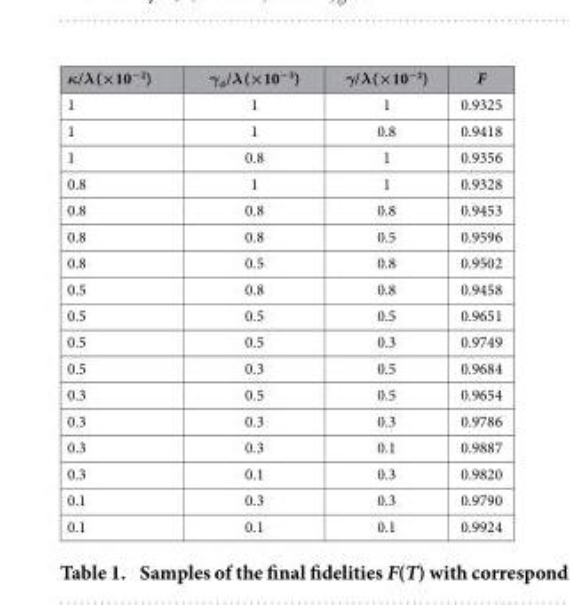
<table><thead><tr><td>κ/λ (×10<sup>−2</sup>)</td><td>γ<sub>φ</sub>/λ (×10<sup>−3</sup>)</td><td>γ/λ (×10<sup>−2</sup>)</td><td>F</td></tr></thead><tbody><tr><td>1</td><td>1</td><td>1</td><td>0.9325</td></tr><tr><td>1</td><td>1</td><td>0.8</td><td>0.9418</td></tr><tr><td>1</td><td>0.8</td><td>1</td><td>0.9356</td></tr><tr><td>0.8</td><td>1</td><td>1</td><td>0.9328</td></tr><tr><td>0.8</td><td>0.8</td><td>0.8</td><td>0.9453</td></tr><tr><td>0.8</td><td>0.8</td><td>0.5</td><td>0.9596</td></tr><tr><td>0.8</td><td>0.5</td><td>0.8</td><td>0.9502</td></tr><tr><td>0.5</td><td>0.8</td><td>0.8</td><td>0.9458</td></tr><tr><td>0.5</td><td>0.5</td><td>0.5</td><td>0.9651</td></tr><tr><td>0.5</td><td>0.5</td><td>0.3</td><td>0.9749</td></tr><tr><td>0.5</td><td>0.3</td><td>0.5</td><td>0.9684</td></tr><tr><td>0.3</td><td>0.5</td><td>0.5</td><td>0.9654</td></tr><tr><td>0.3</td><td>0.3</td><td>0.3</td><td>0.9786</td></tr><tr><td>0.3</td><td>0.3</td><td>0.1</td><td>0.9887</td></tr><tr><td>0.3</td><td>0.1</td><td>0.3</td><td>0.9820</td></tr><tr><td>0.1</td><td>0.3</td><td>0.3</td><td>0.9790</td></tr><tr><td>0.1</td><td>0.1</td><td>0.1</td><td>0.9924</td></tr></tbody></table>